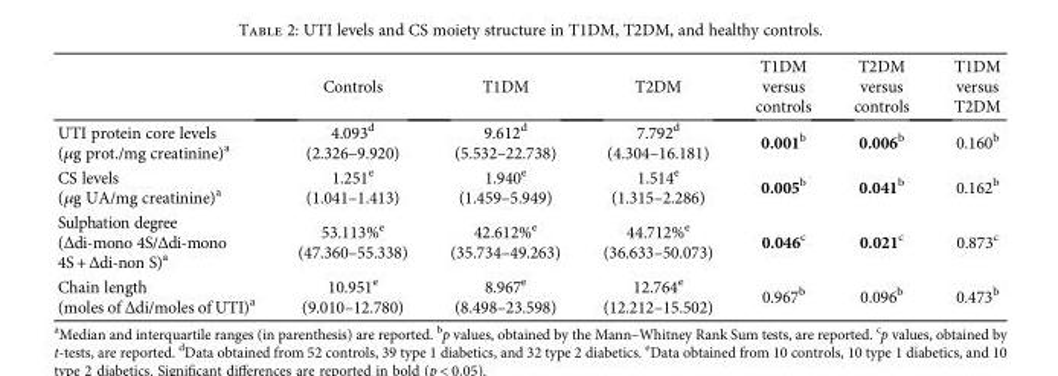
<table><thead><tr><td></td><td>Controls</td><td>T1DM</td><td>T2DM</td><td>T1DM versus controls</td><td>T2DM versus controls</td><td>T1DM versus T2DM</td></tr></thead><tbody><tr><td>UTI protein core levels (μg prot./mg creatinine)<sup>a</sup></td><td>4.093<sup>d</sup> (2.326–9.920)</td><td>9.612<sup>d</sup> (5.532–22.738)</td><td>7.792<sup>d</sup> (4.304–16.181)</td><td>0.001<sup>b</sup></td><td>0.006<sup>b</sup></td><td>0.160<sup>b</sup></td></tr><tr><td>CS levels (μg UA/mg creatinine)<sup>a</sup></td><td>1.251<sup>e</sup> (1.041–1.413)</td><td>1.940<sup>e</sup> (1.459–5.949)</td><td>1.514<sup>e</sup> (1.315–2.286)</td><td>0.005<sup>b</sup></td><td>0.041<sup>b</sup></td><td>0.162<sup>b</sup></td></tr><tr><td>Sulphation degree (Δdi-mono 4S/Δdi-mono 4S+ Δdi-non S)a</td><td>53.113%<sup>e</sup> (47.360–55.338)</td><td>42.612%<sup>e</sup> (35.734–49.263)</td><td>44.712%<sup>e</sup> (36.633–50.073)</td><td>0.046<sup>c</sup></td><td>0.021<sup>c</sup></td><td>0.873<sup>c</sup></td></tr><tr><td>Chain length (moles of Δdi/moles of UTI)a</td><td>10.951<sup>e</sup> (9.010–12.780)</td><td>8.967<sup>e</sup> (8.498–23.598)</td><td>12.764<sup>e</sup> (12.212–15.502)</td><td>0.967<sup>b</sup></td><td>0.096<sup>b</sup></td><td>0.473<sup>b</sup></td></tr></tbody></table>